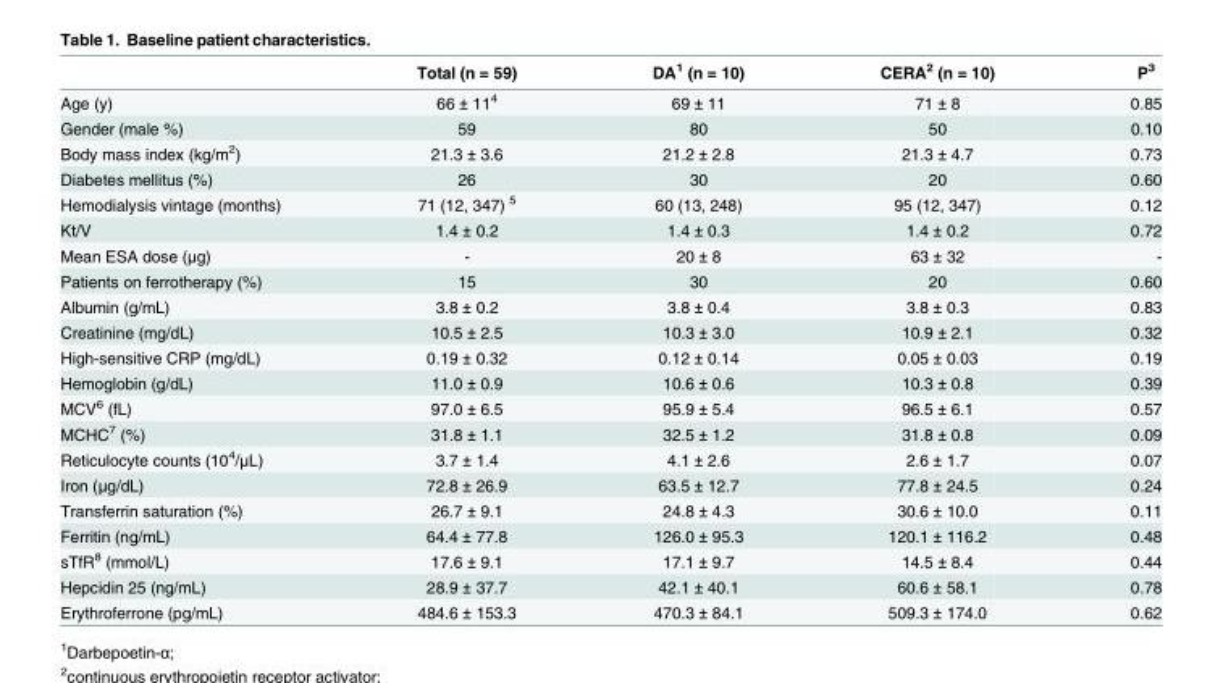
<table><thead><tr><td></td><td>Total (n = 59)</td><td>DA<sup>1</sup> (n = 10)</td><td>CERA<sup>2</sup> (n = 10)</td><td>P<sup>3</sup></td></tr></thead><tbody><tr><td>Age (y)</td><td>66 ± 11<sup>4</sup></td><td>69 ± 11</td><td>71 ± 8</td><td>0.85</td></tr><tr><td>Gender (male %)</td><td>59</td><td>80</td><td>50</td><td>0.10</td></tr><tr><td>Body mass index (kg/m<sup>2</sup>)</td><td>21.3 ± 3.6</td><td>21.2 ± 2.8</td><td>21.3 ± 4.7</td><td>0.73</td></tr><tr><td>Diabetes mellitus (%)</td><td>26</td><td>30</td><td>20</td><td>0.60</td></tr><tr><td>Hemodialysis vintage (months)</td><td>71 (12, 347) <sup>5</sup></td><td>60 (13, 248)</td><td>95 (12, 347)</td><td>0.12</td></tr><tr><td>Kt/V</td><td>1.4 ± 0.2</td><td>1.4 ± 0.3</td><td>1.4 ± 0.2</td><td>0.72</td></tr><tr><td>Mean ESA dose (μg)</td><td>-</td><td>20 ± 8</td><td>63 ± 32</td><td>-</td></tr><tr><td>Patients on ferrotherapy (%)</td><td>15</td><td>30</td><td>20</td><td>0.60</td></tr><tr><td>Albumin (g/mL)</td><td>3.8 ± 0.2</td><td>3.8 ± 0.4</td><td>3.8 ± 0.3</td><td>0.83</td></tr><tr><td>Creatinine (mg/dL)</td><td>10.5 ± 2.5</td><td>10.3 ± 3.0</td><td>10.9 ± 2.1</td><td>0.32</td></tr><tr><td>High-sensitive CRP (mg/dL)</td><td>0.19 ± 0.32</td><td>0.12 ± 0.14</td><td>0.05 ± 0.03</td><td>0.19</td></tr><tr><td>Hemoglobin (g/dL)</td><td>11.0 ± 0.9</td><td>10.6 ± 0.6</td><td>10.3 ± 0.8</td><td>0.39</td></tr><tr><td>MCV<sup>6</sup> (fL)</td><td>97.0 ± 6.5</td><td>95.9 ± 5.4</td><td>96.5 ± 6.1</td><td>0.57</td></tr><tr><td>MCHC<sup>7</sup> (%)</td><td>31.8 ± 1.1</td><td>32.5 ± 1.2</td><td>31.8 ± 0.8</td><td>0.09</td></tr><tr><td>Reticulocyte counts (10<sup>4</sup>/μL)</td><td>3.7 ± 1.4</td><td>4.1 ± 2.6</td><td>2.6 ± 1.7</td><td>0.07</td></tr><tr><td>Iron (μg/dL)</td><td>72.8 ± 26.9</td><td>63.5 ± 12.7</td><td>77.8 ± 24.5</td><td>0.24</td></tr><tr><td>Transferrin saturation (%)</td><td>26.7 ± 9.1</td><td>24.8 ± 4.3</td><td>30.6 ± 10.0</td><td>0.11</td></tr><tr><td>Ferritin (ng/mL)</td><td>64.4 ± 77.8</td><td>126.0 ± 95.3</td><td>120.1 ± 116.2</td><td>0.48</td></tr><tr><td>sTfR<sup>8</sup> (mmol/L)</td><td>17.6 ± 9.1</td><td>17.1 ± 9.7</td><td>14.5 ± 8.4</td><td>0.44</td></tr><tr><td>Hepcidin 25 (ng/mL)</td><td>28.9 ± 37.7</td><td>42.1 ± 40.1</td><td>60.6 ± 58.1</td><td>0.78</td></tr><tr><td>Erythroferrone (pg/mL)</td><td>484.6 ± 153.3</td><td>470.3 ± 84.1</td><td>509.3 ± 174.0</td><td>0.62</td></tr></tbody></table>